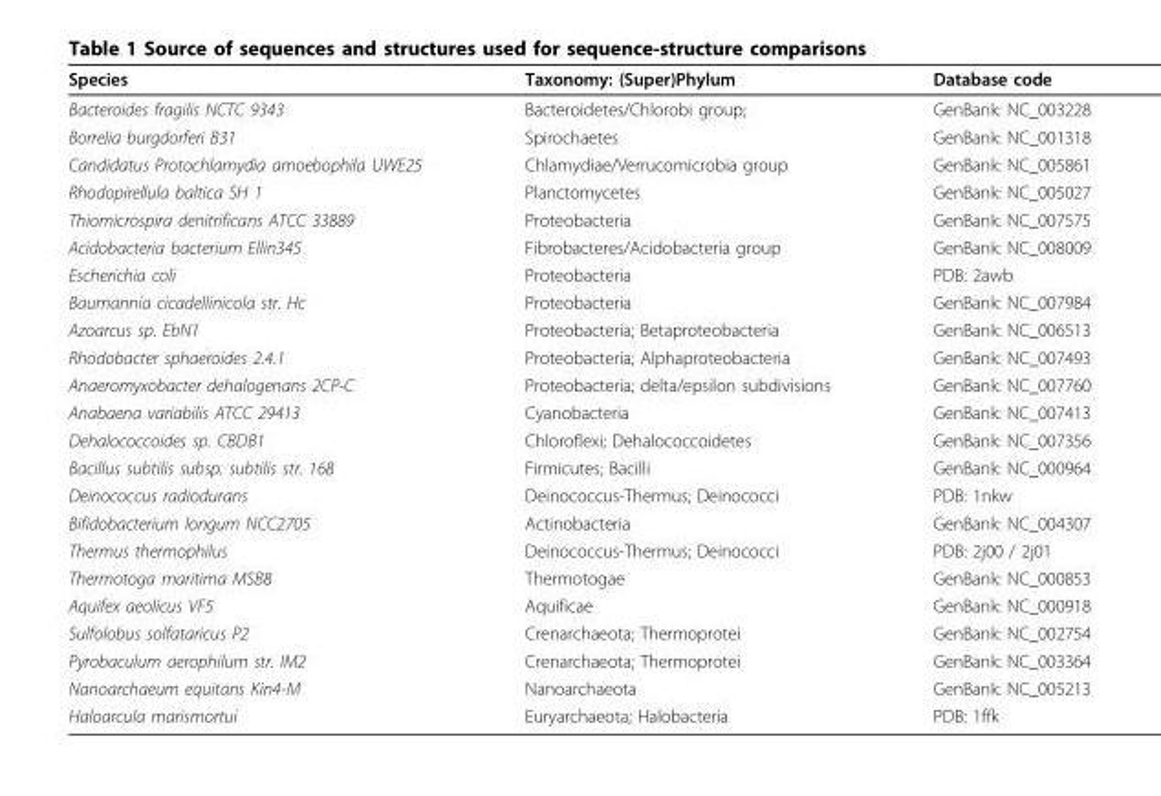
<table><thead><tr><td>Species</td><td>Taxonomy: (Super)Phylum</td><td>Database code</td></tr></thead><tbody><tr><td>Bacteroides fragilis NCTC 9343</td><td>Bacteroidetes/Chlorobi group;</td><td>GenBank: NC_003228</td></tr><tr><td>Borrelia burgdorferi B31</td><td>Spirochaetes</td><td>GenBank: NC_001318</td></tr><tr><td>Candidatus Protochlamydia amoebophila UWE25</td><td>Chlamydiae/Verrucomicrobia group</td><td>GenBank: NC_005861</td></tr><tr><td>Rhodopirellula baltica SH 1</td><td>Planctomycetes</td><td>GenBank: NC_005027</td></tr><tr><td>Thiomicrospira denitrificans ATCC 33889</td><td>Proteobacteria</td><td>GenBank: NC_007575</td></tr><tr><td>Acidobacteria bacterium Ellin345</td><td>Fibrobacteres/Acidobacteria group</td><td>GenBank: NC_008009</td></tr><tr><td>Escherichia coli</td><td>Proteobacteria</td><td>PDB: 2awb</td></tr><tr><td>Baumannia cicadellinicola str. Hc</td><td>Proteobacteria</td><td>GenBank: NC_007984</td></tr><tr><td>Azoarcus sp. EbN1</td><td>Proteobacteria; Betaproteobacteria</td><td>GenBank: NC_006513</td></tr><tr><td>Rhodobacter sphaeroides 2.4.1</td><td>Proteobacteria; Alphaproteobacteria</td><td>GenBank: NC_007493</td></tr><tr><td>Anaeromyxobacter dehalogenans 2CP-C</td><td>Proteobacteria; delta/epsilon subdivisions</td><td>GenBank: NC_007760</td></tr><tr><td>Anabaena variabilis ATCC 29413</td><td>Cyanobacteria</td><td>GenBank: NC_007413</td></tr><tr><td>Dehalococcoides sp. CBDB1</td><td>Chloroflexi; Dehalococcoidetes</td><td>GenBank: NC_007356</td></tr><tr><td>Bacillus subtilis subsp. subtilis str. 168</td><td>Firmicutes; Bacilli</td><td>GenBank: NC_000964</td></tr><tr><td>Deinococcus radiodurans</td><td>Deinococcus-Thermus; Deinococci</td><td>PDB: 1nkw</td></tr><tr><td>Bifidobacterium longum NCC2705</td><td>Actinobacteria</td><td>GenBank: NC_004307</td></tr><tr><td>Thermus thermophilus</td><td>Deinococcus-Thermus; Deinococci</td><td>PDB: 2j00 / 2j01</td></tr><tr><td>Thermotoga maritima MSB8</td><td>Thermotogae</td><td>GenBank: NC_000853</td></tr><tr><td>Aquifex aeolicus VF5</td><td>Aquificae</td><td>GenBank: NC_000918</td></tr><tr><td>Sulfolobus solfataricus P2</td><td>Crenarchaeota; Thermoprotei</td><td>GenBank: NC_002754</td></tr><tr><td>Pyrobaculum aerophilum str. IM2</td><td>Crenarchaeota; Thermoprotei</td><td>GenBank: NC_003364</td></tr><tr><td>Nanoarchaeum equitans Kin4-M</td><td>Nanoarchaeota</td><td>GenBank: NC_005213</td></tr><tr><td>Haloarcula marismortui</td><td>Euryarchaeota; Halobacteria</td><td>PDB: 1ffk</td></tr></tbody></table>